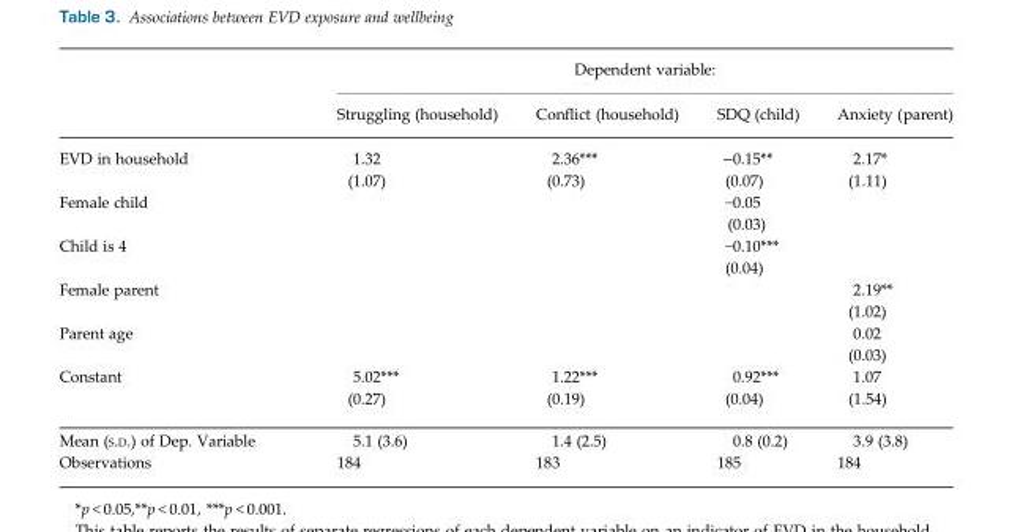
<table><thead><tr><td rowspan="2"></td><td colspan="4">Dependent variable:</td></tr><tr><td>Struggling (household)</td><td>Conflict (household)</td><td>SDQ (child)</td><td>Anxiety (parent)</td></tr></thead><tbody><tr><td>EVD in household</td><td>1.32 (1.07)</td><td>2.36*** (0.73)</td><td>−0.15** (0.07)</td><td>2.17* (1.11)</td></tr><tr><td rowspan="2">Female child</td><td></td><td></td><td>−0.05</td><td></td></tr><tr><td></td><td></td><td>(0.03)</td><td></td></tr><tr><td>Child is 4</td><td></td><td></td><td>−0.10*** (0.04)</td><td></td></tr><tr><td rowspan="2">Female parent</td><td></td><td></td><td></td><td>2.19**</td></tr><tr><td></td><td></td><td></td><td>(1.02)</td></tr><tr><td rowspan="2">Parent age</td><td></td><td></td><td></td><td>0.02</td></tr><tr><td></td><td></td><td></td><td>(0.03)</td></tr><tr><td>Constant</td><td>5.02*** (0.27)</td><td>1.22*** (0.19)</td><td>0.92*** (0.04)</td><td>1.07 (1.54)</td></tr><tr><td>Mean (S.D.) of Dep. Variable</td><td>5.1 (3.6)</td><td>1.4 (2.5)</td><td>0.8 (0.2)</td><td>3.9 (3.8)</td></tr><tr><td>Observations</td><td>184</td><td>183</td><td>185</td><td>184</td></tr></tbody></table>